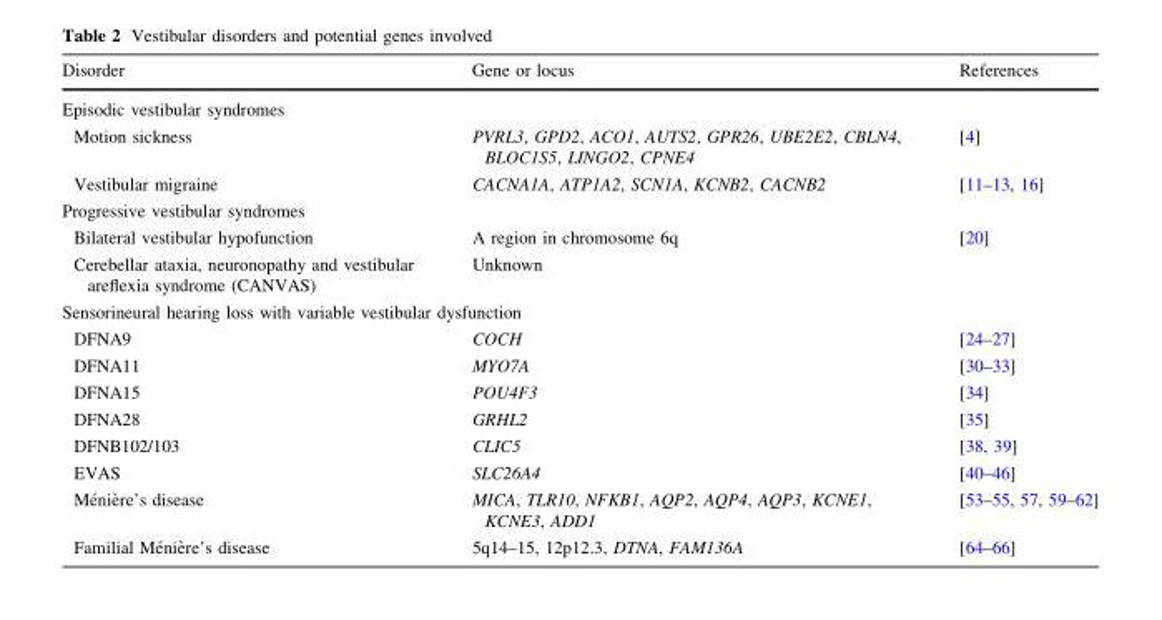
<table><thead><tr><td>Disorder</td><td>Gene or locus</td><td>References</td></tr></thead><tbody><tr><td colspan="3">Episodic vestibular syndromes</td></tr><tr><td>Motion sickness</td><td>PVRL3, GPD2, ACO1, AUTS2, GPR26, UBE2E2, CBLN4, BLOC1S5, LINGO2, CPNE4</td><td>[4]</td></tr><tr><td>Vestibular migraine</td><td>CACNA1A, ATP1A2, SCN1A, KCNB2, CACNB2</td><td>[11–13, 16]</td></tr><tr><td colspan="3">Progressive vestibular syndromes</td></tr><tr><td>Bilateral vestibular hypofunction</td><td>A region in chromosome 6q</td><td>[20]</td></tr><tr><td>Cerebellar ataxia, neuronopathy and vestibular areflexia syndrome (CANVAS)</td><td>Unknown</td><td></td></tr><tr><td colspan="3">Sensorineural hearing loss with variable vestibular dysfunction</td></tr><tr><td>DFNA9</td><td>COCH</td><td>[24–27]</td></tr><tr><td>DFNA11</td><td>MYO7A</td><td>[30–33]</td></tr><tr><td>DFNA15</td><td>POU4F3</td><td>[34]</td></tr><tr><td>DFNA28</td><td>GRHL2</td><td>[35]</td></tr><tr><td>DFNB102/103</td><td>CLIC5</td><td>[38, 39]</td></tr><tr><td>EVAS</td><td>SLC26A4</td><td>[40–46]</td></tr><tr><td>Me´nie`re’s disease</td><td>MICA, TLR10, NFKB1, AQP2, AQP4, AQP3, KCNE1, KCNE3, ADD1</td><td>[53–55, 57, 59–62]</td></tr><tr><td>Familial Me´nie`re’s disease</td><td>5q14–15, 12p12.3, DTNA, FAM136A</td><td>[64–66]</td></tr></tbody></table>